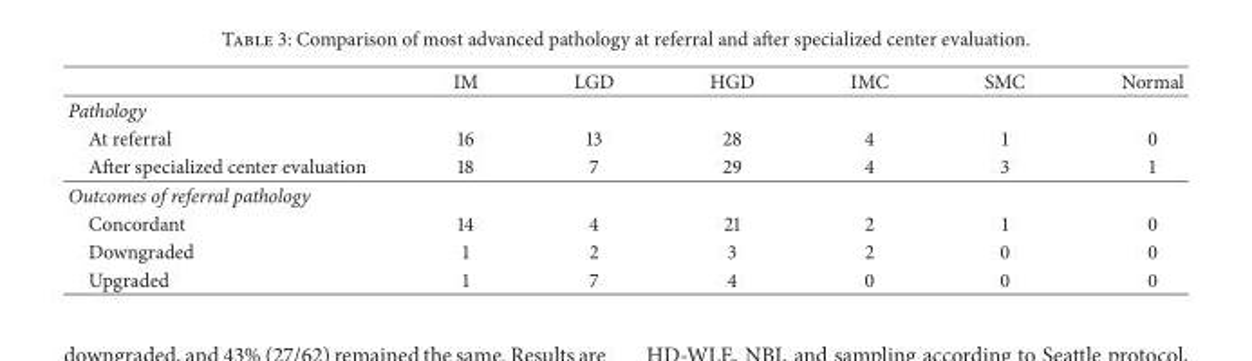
<table><thead><tr><td></td><td>IM</td><td>LGD</td><td>HGD</td><td>IMC</td><td>SMC</td><td>Normal</td></tr></thead><tbody><tr><td colspan="7">Pathology</td></tr><tr><td>At referral</td><td>16</td><td>13</td><td>28</td><td>4</td><td>1</td><td>0</td></tr><tr><td>After specialized center evaluation</td><td>18</td><td>7</td><td>29</td><td>4</td><td>3</td><td>1</td></tr><tr><td colspan="7">Outcomes of referral pathology</td></tr><tr><td>Concordant</td><td>14</td><td>4</td><td>21</td><td>2</td><td>1</td><td>0</td></tr><tr><td>Downgraded</td><td>1</td><td>2</td><td>3</td><td>2</td><td>0</td><td>0</td></tr><tr><td>Upgraded</td><td>1</td><td>7</td><td>4</td><td>0</td><td>0</td><td>0</td></tr></tbody></table>